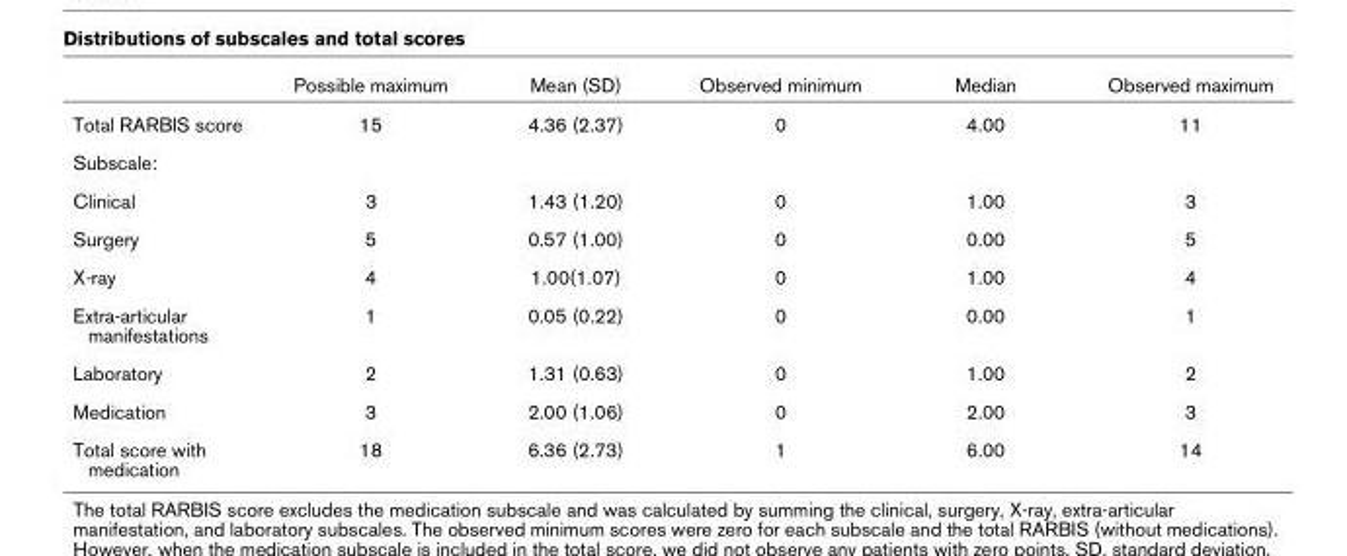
<table><thead><tr><td></td><td>Possible maximum</td><td>Mean (SD)</td><td>Observed minimum</td><td>Median</td><td>Observed maximum</td></tr></thead><tbody><tr><td>Total RARBIS score</td><td>15</td><td>4.36 (2.37)</td><td>0</td><td>4.00</td><td>11</td></tr><tr><td colspan="6">Subscale:</td></tr><tr><td>Clinical</td><td>3</td><td>1.43 (1.20)</td><td>0</td><td>1.00</td><td>3</td></tr><tr><td>Surgery</td><td>5</td><td>0.57 (1.00)</td><td>0</td><td>0.00</td><td>5</td></tr><tr><td>X-ray</td><td>4</td><td>1.00(1.07)</td><td>0</td><td>1.00</td><td>4</td></tr><tr><td>Extra-articular manifestations</td><td>1</td><td>0.05 (0.22)</td><td>0</td><td>0.00</td><td>1</td></tr><tr><td>Laboratory</td><td>2</td><td>1.31 (0.63)</td><td>0</td><td>1.00</td><td>2</td></tr><tr><td>Medication</td><td>3</td><td>2.00 (1.06)</td><td>0</td><td>2.00</td><td>3</td></tr><tr><td>Total score with medication</td><td>18</td><td>6.36 (2.73)</td><td>1</td><td>6.00</td><td>14</td></tr></tbody></table>